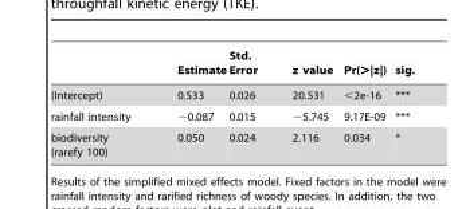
<table><thead><tr><td></td><td>Estimate</td><td>Std. Error</td><td>z value</td><td>Pr(&gt;|z|)</td><td>sig.</td></tr></thead><tbody><tr><td>(Intercept)</td><td>0.533</td><td>0.026</td><td>20.531</td><td>&lt;2e-16</td><td>***</td></tr><tr><td>rainfall intensity</td><td>−0.087</td><td>0.015</td><td>−5.745</td><td>9.17E-09</td><td>***</td></tr><tr><td>biodiversity (rarefy 100)</td><td>0.050</td><td>0.024</td><td>2.116</td><td>0.034</td><td>*</td></tr></tbody></table>